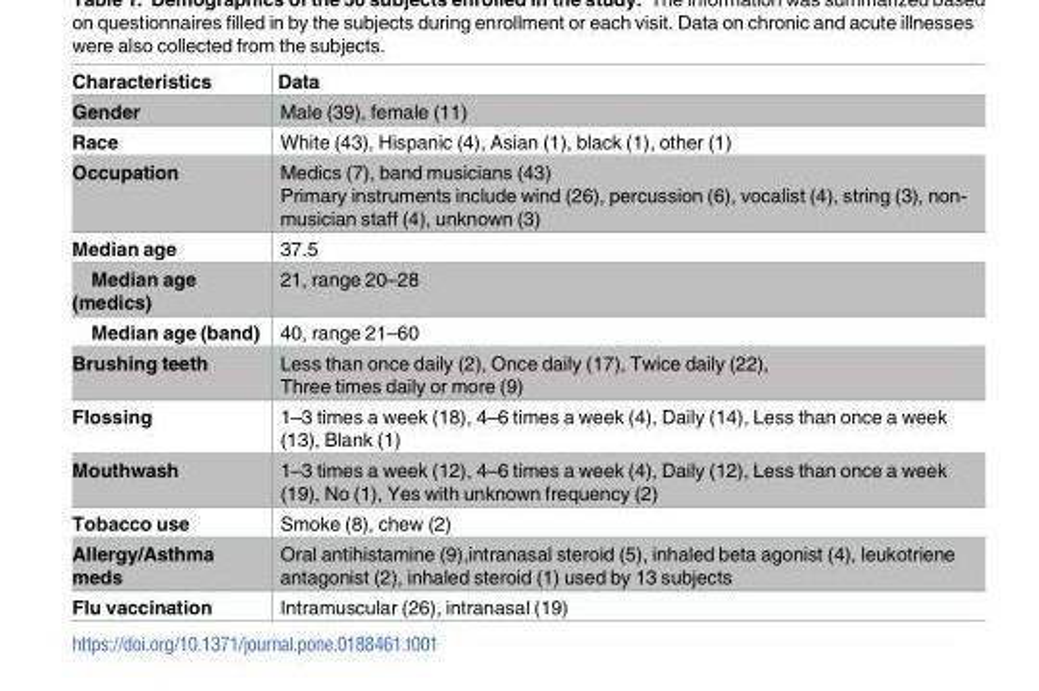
<table><thead><tr><td>Characteristics</td><td>Data</td></tr></thead><tbody><tr><td>Gender</td><td>Male (39), female (11)</td></tr><tr><td>Race</td><td>White (43), Hispanic (4), Asian (1), black (1), other (1)</td></tr><tr><td>Occupation</td><td>Medics (7), band musicians (43) Primary instruments include wind (26), percussion (6), vocalist (4), string (3), non- musician staff (4), unknown (3)</td></tr><tr><td>Median age</td><td>37.5</td></tr><tr><td>Median age (medics)</td><td>21, range 20–28</td></tr><tr><td>Median age (band)</td><td>40, range 21–60</td></tr><tr><td>Brushing teeth</td><td>Less than once daily (2), Once daily (17), Twice daily (22), Three times daily or more (9)</td></tr><tr><td>Flossing</td><td>1–3 times a week (18), 4–6 times a week (4), Daily (14), Less than once a week (13), Blank (1)</td></tr><tr><td>Mouthwash</td><td>1–3 times a week (12), 4–6 times a week (4), Daily (12), Less than once a week (19), No (1), Yes with unknown frequency (2)</td></tr><tr><td>Tobacco use</td><td>Smoke (8), chew (2)</td></tr><tr><td>Allergy/Asthma meds</td><td>Oral antihistamine (9),intranasal steroid (5), inhaled beta agonist (4), leukotriene antagonist (2), inhaled steroid (1) used by 13 subjects</td></tr><tr><td>Flu vaccination</td><td>Intramuscular (26), intranasal (19)</td></tr></tbody></table>